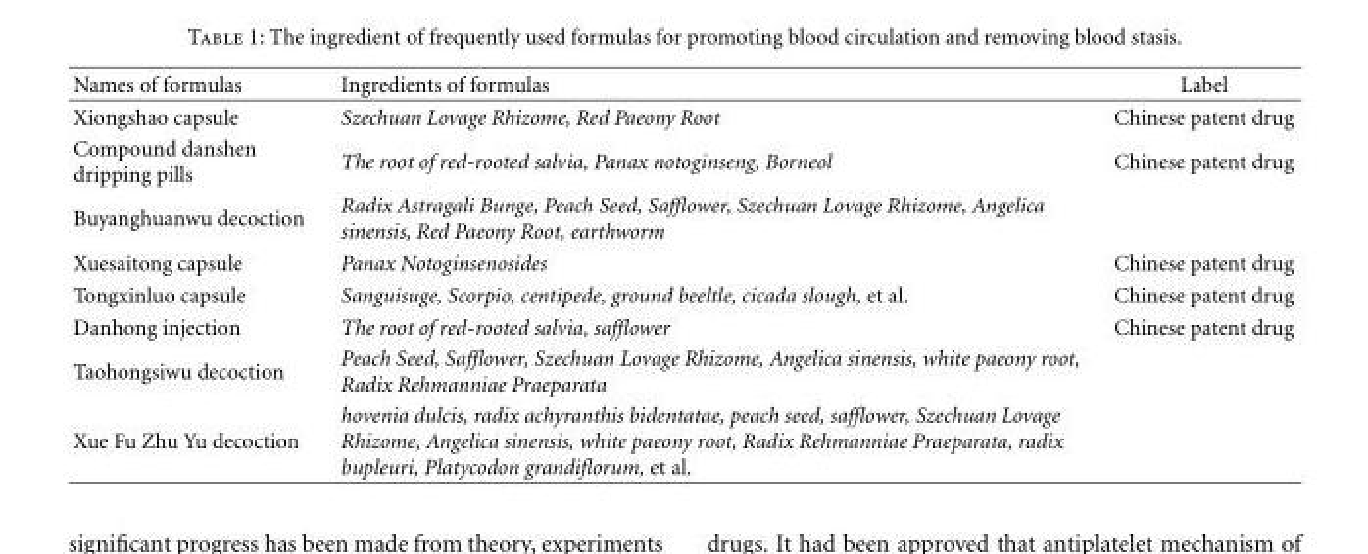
<table><thead><tr><td>Names of formulas</td><td>Ingredients of formulas</td><td>Label</td></tr></thead><tbody><tr><td>Xiongshao capsule</td><td>Szechuan Lovage Rhizome, Red Paeony Root</td><td>Chinese patent drug</td></tr><tr><td>Compound danshen dripping pills</td><td>The root of red-rooted salvia, Panax notoginseng, Borneol</td><td>Chinese patent drug</td></tr><tr><td>Buyanghuanwu decoction</td><td>Radix Astragali Bunge, Peach Seed, Safflower, Szechuan Lovage Rhizome, Angelica sinensis, Red Paeony Root, earthworm</td><td></td></tr><tr><td>Xuesaitong capsule</td><td>Panax Notoginsenosides</td><td>Chinese patent drug</td></tr><tr><td>Tongxinluo capsule</td><td>Sanguisuge, Scorpio, centipede, ground beeltle, cicada slough, et al.</td><td>Chinese patent drug</td></tr><tr><td>Danhong injection</td><td>The root of red-rooted salvia, safflower</td><td>Chinese patent drug</td></tr><tr><td>Taohongsiwu decoction</td><td>Peach Seed, Safflower, Szechuan Lovage Rhizome, Angelica sinensis, white paeony root, Radix Rehmanniae Praeparata</td><td></td></tr><tr><td>Xue Fu Zhu Yu decoction</td><td>hovenia dulcis, radix achyranthis bidentatae, peach seed, safflower, Szechuan Lovage Rhizome, Angelica sinensis, white paeony root, Radix Rehmanniae Praeparata, radix bupleuri, Platycodon grandiflorum, et al.</td><td></td></tr></tbody></table>